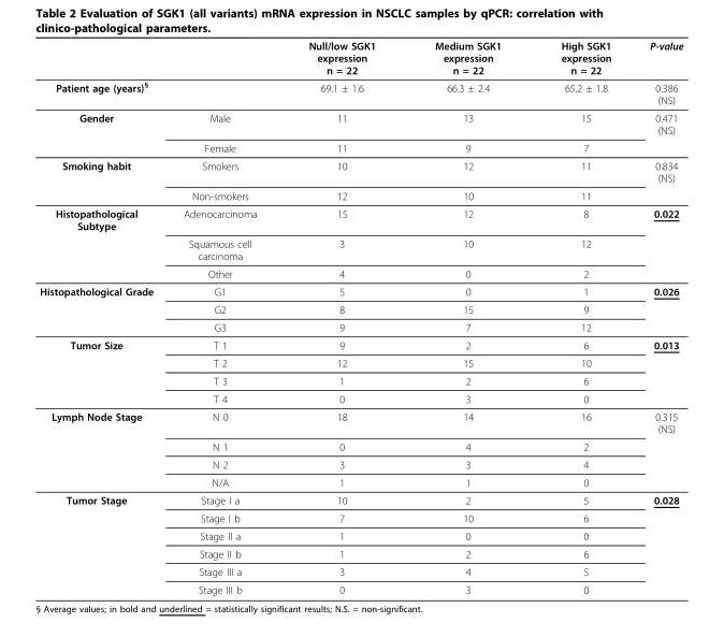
<table><thead><tr><td></td><td></td><td>Null/low SGK1 expression n = 22</td><td>Medium SGK1 expression n = 22</td><td>High SGK1 expression n = 22</td><td>P-value</td></tr></thead><tbody><tr><td colspan="2">Patient age (years)<sup>§</sup></td><td>69.1 ± 1.6</td><td>66.3 ± 2.4</td><td>65.2 ± 1.8</td><td>0.386 (NS)</td></tr><tr><td rowspan="2">Gender</td><td>Male</td><td>11</td><td>13</td><td>15</td><td>0.471 (NS)</td></tr><tr><td>Female</td><td>11</td><td>9</td><td>7</td><td></td></tr><tr><td rowspan="2">Smoking habit</td><td>Smokers</td><td>10</td><td>12</td><td>11</td><td>0.834 (NS)</td></tr><tr><td>Non-smokers</td><td>12</td><td>10</td><td>11</td><td></td></tr><tr><td rowspan="3">Histopathological Subtype</td><td>Adenocarcinoma</td><td>15</td><td>12</td><td>8</td><td>0.022</td></tr><tr><td>Squamous cell carcinoma</td><td>3</td><td>10</td><td>12</td><td></td></tr><tr><td>Other</td><td>4</td><td>0</td><td>2</td><td></td></tr><tr><td rowspan="3">Histopathological Grade</td><td>G1</td><td>5</td><td>0</td><td>1</td><td>0.026</td></tr><tr><td>G2</td><td>8</td><td>15</td><td>9</td><td></td></tr><tr><td>G3</td><td>9</td><td>7</td><td>12</td><td></td></tr><tr><td rowspan="4">Tumor Size</td><td>T 1</td><td>9</td><td>2</td><td>6</td><td>0.013</td></tr><tr><td>T 2</td><td>12</td><td>15</td><td>10</td><td></td></tr><tr><td>T 3</td><td>1</td><td>2</td><td>6</td><td></td></tr><tr><td>T 4</td><td>0</td><td>3</td><td>0</td><td></td></tr><tr><td rowspan="4">Lymph Node Stage</td><td>N 0</td><td>18</td><td>14</td><td>16</td><td>0.315 (NS)</td></tr><tr><td>N 1</td><td>0</td><td>4</td><td>2</td><td></td></tr><tr><td>N 2</td><td>3</td><td>3</td><td>4</td><td></td></tr><tr><td>N/A</td><td>1</td><td>1</td><td>0</td><td></td></tr><tr><td rowspan="6">Tumor Stage</td><td>Stage I a</td><td>10</td><td>2</td><td>5</td><td>0.028</td></tr><tr><td>Stage I b</td><td>7</td><td>10</td><td>6</td><td></td></tr><tr><td>Stage II a</td><td>1</td><td>0</td><td>0</td><td></td></tr><tr><td>Stage II b</td><td>1</td><td>2</td><td>6</td><td></td></tr><tr><td>Stage III a</td><td>3</td><td>4</td><td>5</td><td></td></tr><tr><td>Stage III b</td><td>0</td><td>3</td><td>0</td><td></td></tr></tbody></table>